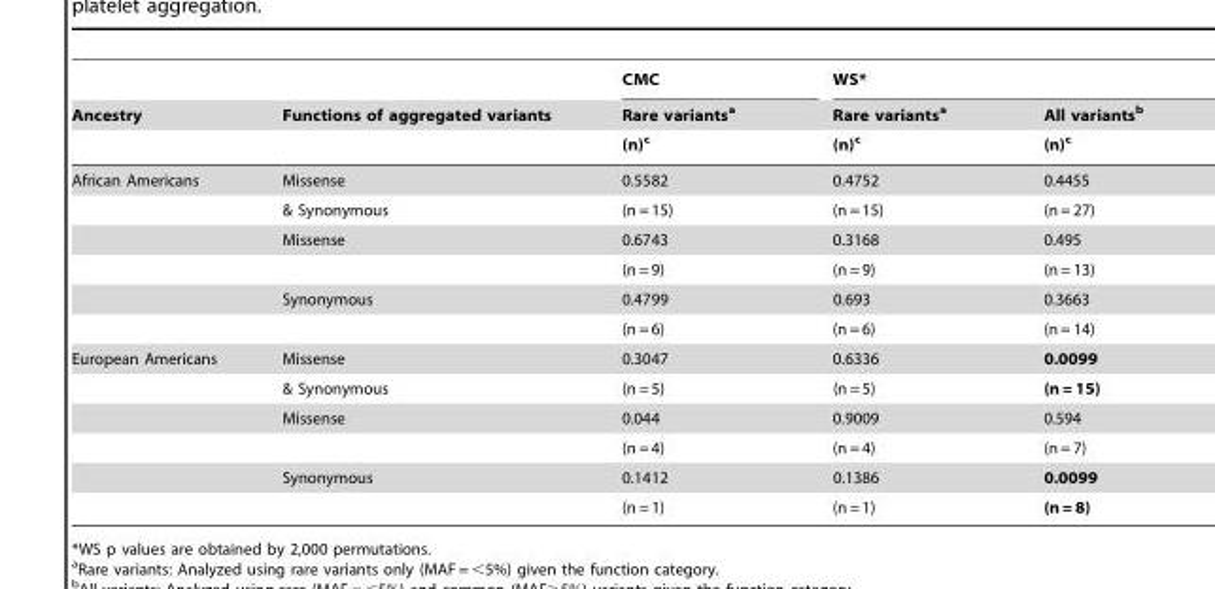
<table><thead><tr><td rowspan="3">Ancestry</td><td rowspan="3">Functions of aggregated variants</td><td rowspan="3">CMC Rare variants<sup>a</sup> (n)<sup>c</sup></td><td colspan="2">WS*</td></tr><tr><td rowspan="2">Rare variants<sup>a</sup> (n)<sup>c</sup></td><td rowspan="2">All variants<sup>b</sup> (n)<sup>c</sup></td></tr><tr></tr></thead><tbody><tr><td rowspan="6">African Americans</td><td>Missense</td><td>0.5582</td><td>0.4752</td><td>0.4455</td></tr><tr><td>&amp; Synonymous</td><td>(n = 15)</td><td>(n = 15)</td><td>(n = 27)</td></tr><tr><td>Missense</td><td>0.6743</td><td>0.3168</td><td>0.495</td></tr><tr><td></td><td>(n = 9)</td><td>(n = 9)</td><td>(n = 13)</td></tr><tr><td>Synonymous</td><td>0.4799</td><td>0.693</td><td>0.3663</td></tr><tr><td></td><td>(n = 6)</td><td>(n = 6)</td><td>(n = 14)</td></tr><tr><td rowspan="6">European Americans</td><td>Missense</td><td>0.3047</td><td>0.6336</td><td>0.0099</td></tr><tr><td>&amp; Synonymous</td><td>(n = 5)</td><td>(n = 5)</td><td>(n = 15)</td></tr><tr><td>Missense</td><td>0.044</td><td>0.9009</td><td>0.594</td></tr><tr><td></td><td>(n = 4)</td><td>(n = 4)</td><td>(n = 7)</td></tr><tr><td>Synonymous</td><td>0.1412</td><td>0.1386</td><td>0.0099</td></tr><tr><td></td><td>(n = 1)</td><td>(n = 1)</td><td>(n = 8)</td></tr></tbody></table>